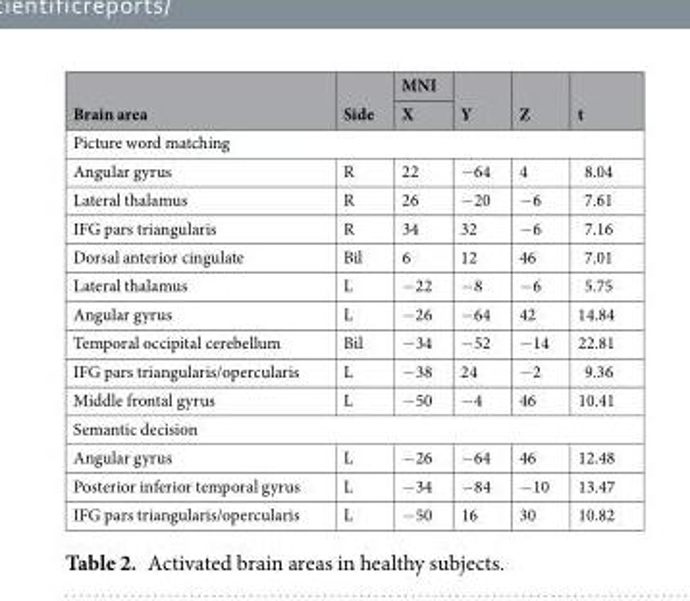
<table><thead><tr><td rowspan="2">Brain area</td><td rowspan="2">Side</td><td rowspan="2">MNI X</td><td rowspan="2">Y</td><td rowspan="2">Z</td><td rowspan="2">t</td></tr><tr></tr></thead><tbody><tr><td colspan="6">Picture word matching</td></tr><tr><td>Angular gyrus</td><td>R</td><td>22</td><td>−64</td><td>4</td><td>8.04</td></tr><tr><td>Lateral thalamus</td><td>R</td><td>26</td><td>−20</td><td>−6</td><td>7.61</td></tr><tr><td>IFG pars triangularis</td><td>R</td><td>34</td><td>32</td><td>−6</td><td>7.16</td></tr><tr><td>Dorsal anterior cingulate</td><td>Bil</td><td>6</td><td>12</td><td>46</td><td>7.01</td></tr><tr><td>Lateral thalamus</td><td>L</td><td>−22</td><td>−8</td><td>−6</td><td>5.75</td></tr><tr><td>Angular gyrus</td><td>L</td><td>−26</td><td>−64</td><td>42</td><td>14.84</td></tr><tr><td>Temporal occipital cerebellum</td><td>Bil</td><td>−34</td><td>−52</td><td>−14</td><td>22.81</td></tr><tr><td>IFG pars triangularis/opercularis</td><td>L</td><td>−38</td><td>24</td><td>−2</td><td>9.36</td></tr><tr><td>Middle frontal gyrus</td><td>L</td><td>−50</td><td>−4</td><td>46</td><td>10.41</td></tr><tr><td colspan="6">Semantic decision</td></tr><tr><td>Angular gyrus</td><td>L</td><td>−26</td><td>−64</td><td>46</td><td>12.48</td></tr><tr><td>Posterior inferior temporal gyrus</td><td>L</td><td>−34</td><td>−84</td><td>−10</td><td>13.47</td></tr><tr><td>IFG pars triangularis/opercularis</td><td>L</td><td>−50</td><td>16</td><td>30</td><td>10.82</td></tr></tbody></table>